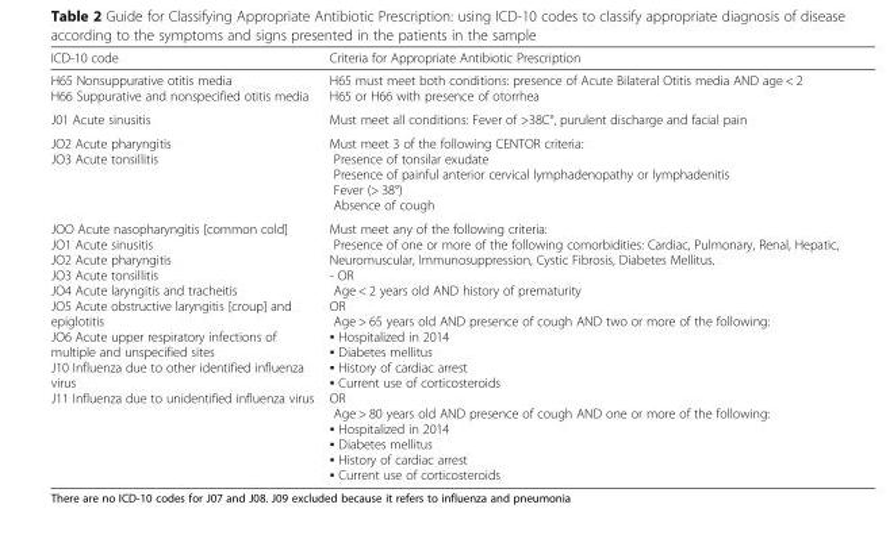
<table><thead><tr><td>ICD-10 code</td><td>Criteria for Appropriate Antibiotic Prescription</td></tr></thead><tbody><tr><td>H65 Nonsuppurative otitis media H66 Suppurative and nonspecified otitis media</td><td>H65 must meet both conditions: presence of Acute Bilateral Otitis media AND age &lt; 2 H65 or H66 with presence of otorrhea</td></tr><tr><td>J01 Acute sinusitis</td><td>Must meet all conditions: Fever of &gt;38C°, purulent discharge and facial pain</td></tr><tr><td>JO2 Acute pharyngitis JO3 Acute tonsillitis</td><td>Must meet 3 of the following CENTOR criteria: Presence of tonsilar exudate Presence of painful anterior cervical lymphadenopathy or lymphadenitis Fever (&gt; 38°) Absence of cough</td></tr><tr><td>JOO Acute nasopharyngitis [common cold] JO1 Acute sinusitis JO2 Acute pharyngitis JO3 Acute tonsillitis JO4 Acute laryngitis and tracheitis JO5 Acute obstructive laryngitis [croup] and epiglotitis JO6 Acute upper respiratory infections of multiple and unspecified sites J10 Influenza due to other identified influenza virus J11 Influenza due to unidentified influenza virus</td><td>Must meet any of the following criteria: Presence of one or more of the following comorbidities: Cardiac, Pulmonary, Renal, Hepatic, Neuromuscular, Immunosuppression, Cystic Fibrosis, Diabetes Mellitus. - OR Age &lt; 2 years old AND history of prematurity OR Age &gt; 65 years old AND presence of cough AND two or more of the following: ▪ Hospitalized in 2014 ▪ Diabetes mellitus ▪ History of cardiac arrest ▪ Current use of corticosteroids OR Age &gt; 80 years old AND presence of cough AND one or more of the following: ▪ Hospitalized in 2014 ▪ Diabetes mellitus ▪ History of cardiac arrest ▪ Current use of corticosteroids</td></tr></tbody></table>